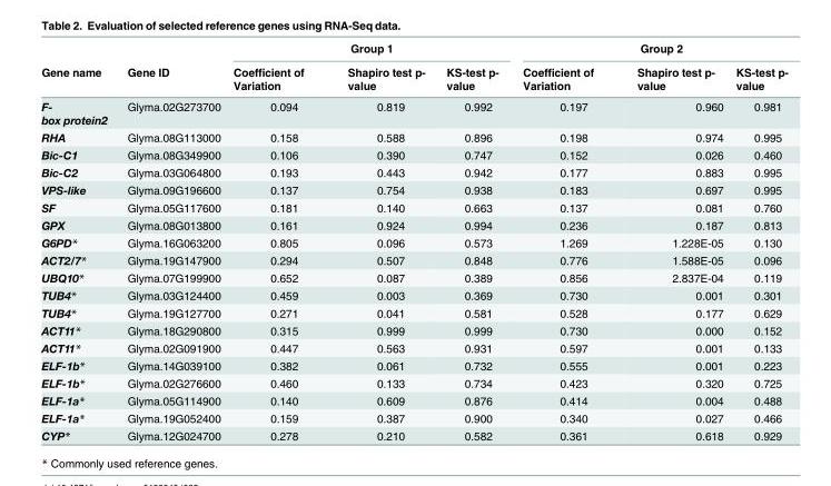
<table><thead><tr><td rowspan="2">Gene name</td><td rowspan="2">Gene ID</td><td colspan="3">Group 1</td><td colspan="3">Group 2</td></tr><tr><td>Coefficient of Variation</td><td>Shapiro test p- value</td><td>KS-test p- value</td><td>Coefficient of Variation</td><td>Shapiro test p- value</td><td>KS-test p- value</td></tr></thead><tbody><tr><td>F- box protein2</td><td>Glyma.02G273700</td><td>0.094</td><td>0.819</td><td>0.992</td><td>0.197</td><td>0.960</td><td>0.981</td></tr><tr><td>RHA</td><td>Glyma.08G113000</td><td>0.158</td><td>0.588</td><td>0.896</td><td>0.198</td><td>0.974</td><td>0.995</td></tr><tr><td>Bic-C1</td><td>Glyma.08G349900</td><td>0.106</td><td>0.390</td><td>0.747</td><td>0.152</td><td>0.026</td><td>0.460</td></tr><tr><td>Bic-C2</td><td>Glyma.03G064800</td><td>0.193</td><td>0.443</td><td>0.942</td><td>0.177</td><td>0.883</td><td>0.995</td></tr><tr><td>VPS-like</td><td>Glyma.09G196600</td><td>0.137</td><td>0.754</td><td>0.938</td><td>0.183</td><td>0.697</td><td>0.995</td></tr><tr><td>SF</td><td>Glyma.05G117600</td><td>0.181</td><td>0.140</td><td>0.663</td><td>0.137</td><td>0.081</td><td>0.760</td></tr><tr><td>GPX</td><td>Glyma.08G013800</td><td>0.161</td><td>0.924</td><td>0.994</td><td>0.236</td><td>0.187</td><td>0.813</td></tr><tr><td>G6PD*</td><td>Glyma.16G063200</td><td>0.805</td><td>0.096</td><td>0.573</td><td>1.269</td><td>1.228E-05</td><td>0.130</td></tr><tr><td>ACT2/7*</td><td>Glyma.19G147900</td><td>0.294</td><td>0.507</td><td>0.848</td><td>0.776</td><td>1.588E-05</td><td>0.096</td></tr><tr><td>UBQ10*</td><td>Glyma.07G199900</td><td>0.652</td><td>0.087</td><td>0.389</td><td>0.856</td><td>2.837E-04</td><td>0.119</td></tr><tr><td>TUB4*</td><td>Glyma.03G124400</td><td>0.459</td><td>0.003</td><td>0.369</td><td>0.730</td><td>0.001</td><td>0.301</td></tr><tr><td>TUB4*</td><td>Glyma.19G127700</td><td>0.271</td><td>0.041</td><td>0.581</td><td>0.528</td><td>0.177</td><td>0.629</td></tr><tr><td>ACT11*</td><td>Glyma.18G290800</td><td>0.315</td><td>0.999</td><td>0.999</td><td>0.730</td><td>0.000</td><td>0.152</td></tr><tr><td>ACT11*</td><td>Glyma.02G091900</td><td>0.447</td><td>0.563</td><td>0.931</td><td>0.597</td><td>0.001</td><td>0.133</td></tr><tr><td>ELF-1b*</td><td>Glyma.14G039100</td><td>0.382</td><td>0.061</td><td>0.732</td><td>0.555</td><td>0.001</td><td>0.223</td></tr><tr><td>ELF-1b*</td><td>Glyma.02G276600</td><td>0.460</td><td>0.133</td><td>0.734</td><td>0.423</td><td>0.320</td><td>0.725</td></tr><tr><td>ELF-1a*</td><td>Glyma.05G114900</td><td>0.140</td><td>0.609</td><td>0.876</td><td>0.414</td><td>0.004</td><td>0.488</td></tr><tr><td>ELF-1a*</td><td>Glyma.19G052400</td><td>0.159</td><td>0.387</td><td>0.900</td><td>0.340</td><td>0.027</td><td>0.466</td></tr><tr><td>CYP*</td><td>Glyma.12G024700</td><td>0.278</td><td>0.210</td><td>0.582</td><td>0.361</td><td>0.618</td><td>0.929</td></tr></tbody></table>